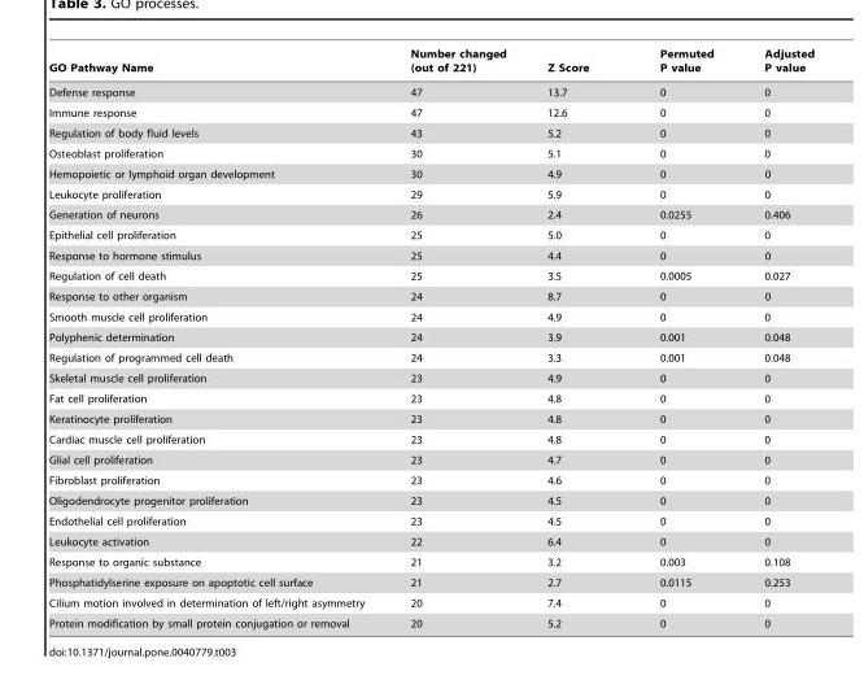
<table><thead><tr><td>GO Pathway Name</td><td>Number changed (out of 221)</td><td>Z Score</td><td>Permuted P value</td><td>Adjusted P value</td></tr></thead><tbody><tr><td>Defense response</td><td>47</td><td>13.7</td><td>0</td><td>0</td></tr><tr><td>Immune response</td><td>47</td><td>12.6</td><td>0</td><td>0</td></tr><tr><td>Regulation of body fluid levels</td><td>43</td><td>5.2</td><td>0</td><td>0</td></tr><tr><td>Osteoblast proliferation</td><td>30</td><td>5.1</td><td>0</td><td>0</td></tr><tr><td>Hemopoietic or lymphoid organ development</td><td>30</td><td>4.9</td><td>0</td><td>0</td></tr><tr><td>Leukocyte proliferation</td><td>29</td><td>5.9</td><td>0</td><td>0</td></tr><tr><td>Generation of neurons</td><td>26</td><td>2.4</td><td>0.0255</td><td>0.406</td></tr><tr><td>Epithelial cell proliferation</td><td>25</td><td>5.0</td><td>0</td><td>0</td></tr><tr><td>Response to hormone stimulus</td><td>25</td><td>4.4</td><td>0</td><td>0</td></tr><tr><td>Regulation of cell death</td><td>25</td><td>3.5</td><td>0.0005</td><td>0.027</td></tr><tr><td>Response to other organism</td><td>24</td><td>8.7</td><td>0</td><td>0</td></tr><tr><td>Smooth muscle cell proliferation</td><td>24</td><td>4.9</td><td>0</td><td>0</td></tr><tr><td>Polyphenic determination</td><td>24</td><td>3.9</td><td>0.001</td><td>0.048</td></tr><tr><td>Regulation of programmed cell death</td><td>24</td><td>3.3</td><td>0.001</td><td>0.048</td></tr><tr><td>Skeletal muscle cell proliferation</td><td>23</td><td>4.9</td><td>0</td><td>0</td></tr><tr><td>Fat cell proliferation</td><td>23</td><td>4.8</td><td>0</td><td>0</td></tr><tr><td>Keratinocyte proliferation</td><td>23</td><td>4.8</td><td>0</td><td>0</td></tr><tr><td>Cardiac muscle cell proliferation</td><td>23</td><td>4.8</td><td>0</td><td>0</td></tr><tr><td>Glial cell proliferation</td><td>23</td><td>4.7</td><td>0</td><td>0</td></tr><tr><td>Fibroblast proliferation</td><td>23</td><td>4.6</td><td>0</td><td>0</td></tr><tr><td>Oligodendrocyte progenitor proliferation</td><td>23</td><td>4.5</td><td>0</td><td>0</td></tr><tr><td>Endothelial cell proliferation</td><td>23</td><td>4.5</td><td>0</td><td>0</td></tr><tr><td>Leukocyte activation</td><td>22</td><td>6.4</td><td>0</td><td>0</td></tr><tr><td>Response to organic substance</td><td>21</td><td>3.2</td><td>0.003</td><td>0.108</td></tr><tr><td>Phosphatidylserine exposure on apoptotic cell surface</td><td>21</td><td>2.7</td><td>0.0115</td><td>0.253</td></tr><tr><td>Cilium motion involved in determination of left/right asymmetry</td><td>20</td><td>7.4</td><td>0</td><td>0</td></tr><tr><td>Protein modification by small protein conjugation or removal</td><td>20</td><td>5.2</td><td>0</td><td>0</td></tr></tbody></table>